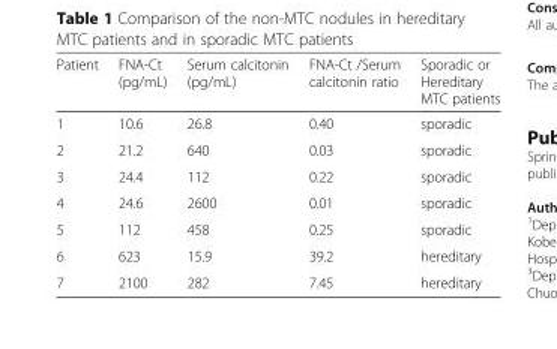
<table><thead><tr><td>Patient</td><td>FNA-Ct (pg/mL)</td><td>Serum calcitonin (pg/mL)</td><td>FNA-Ct /Serum calcitonin ratio</td><td>Sporadic or Hereditary MTC patients</td></tr></thead><tbody><tr><td>1</td><td>10.6</td><td>26.8</td><td>0.40</td><td>sporadic</td></tr><tr><td>2</td><td>21.2</td><td>640</td><td>0.03</td><td>sporadic</td></tr><tr><td>3</td><td>24.4</td><td>112</td><td>0.22</td><td>sporadic</td></tr><tr><td>4</td><td>24.6</td><td>2600</td><td>0.01</td><td>sporadic</td></tr><tr><td>5</td><td>112</td><td>458</td><td>0.25</td><td>sporadic</td></tr><tr><td>6</td><td>623</td><td>15.9</td><td>39.2</td><td>hereditary</td></tr><tr><td>7</td><td>2100</td><td>282</td><td>7.45</td><td>hereditary</td></tr></tbody></table>